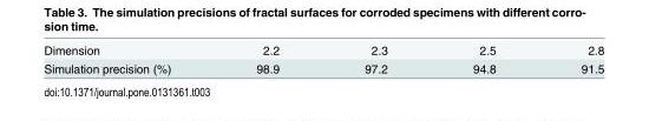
<table><tbody><tr><td>Dimension</td><td>2.2</td><td>2.3</td><td>2.5</td><td>2.8</td></tr><tr><td>Simulation precision (%)</td><td>98.9</td><td>97.2</td><td>94.8</td><td>91.5</td></tr></tbody></table>